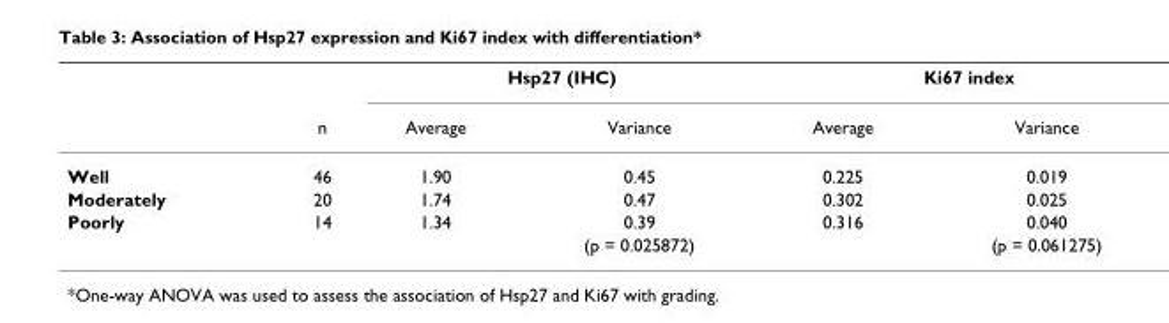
<table><thead><tr><td rowspan="2"></td><td rowspan="2">n</td><td colspan="2">Hsp27 (IHC)</td><td colspan="2">Ki67 index</td></tr><tr><td>Average</td><td>Variance</td><td>Average</td><td>Variance</td></tr></thead><tbody><tr><td>Well</td><td>46</td><td>1.90</td><td>0.45</td><td>0.225</td><td>0.019</td></tr><tr><td>Moderately</td><td>20</td><td>1.74</td><td>0.47</td><td>0.302</td><td>0.025</td></tr><tr><td rowspan="2">Poorly</td><td>14</td><td>1.34</td><td>0.39</td><td>0.316</td><td>0.040</td></tr><tr><td></td><td></td><td>(p = 0.025872)</td><td></td><td>(p = 0.061275)</td></tr></tbody></table>